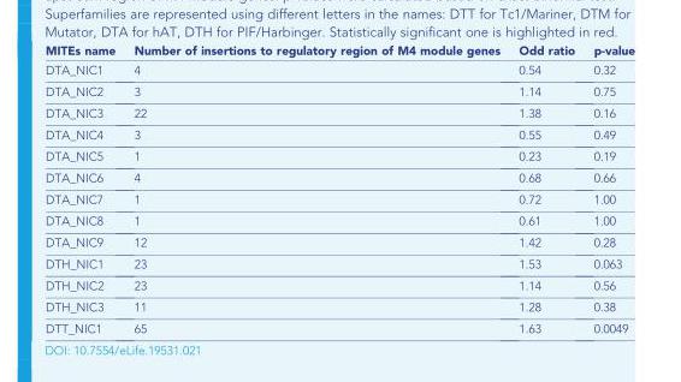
<table><thead><tr><td>MITEs name</td><td>Number of insertions to regulatory region of M4 module genes</td><td>Odd ratio</td><td>p-value</td></tr></thead><tbody><tr><td>DTA_NIC1</td><td>4</td><td>0.54</td><td>0.32</td></tr><tr><td>DTA_NIC2</td><td>3</td><td>1.14</td><td>0.75</td></tr><tr><td>DTA_NIC3</td><td>22</td><td>1.38</td><td>0.16</td></tr><tr><td>DTA_NIC4</td><td>3</td><td>0.55</td><td>0.49</td></tr><tr><td>DTA_NIC5</td><td>1</td><td>0.23</td><td>0.19</td></tr><tr><td>DTA_NIC6</td><td>4</td><td>0.68</td><td>0.66</td></tr><tr><td>DTA_NIC7</td><td>1</td><td>0.72</td><td>1.00</td></tr><tr><td>DTA_NIC8</td><td>1</td><td>0.61</td><td>1.00</td></tr><tr><td>DTA_NIC9</td><td>12</td><td>1.42</td><td>0.28</td></tr><tr><td>DTH_NIC1</td><td>23</td><td>1.53</td><td>0.063</td></tr><tr><td>DTH_NIC2</td><td>23</td><td>1.14</td><td>0.56</td></tr><tr><td>DTH_NIC3</td><td>11</td><td>1.28</td><td>0.38</td></tr><tr><td>DTT_NIC1</td><td>65</td><td>1.63</td><td>0.0049</td></tr></tbody></table>